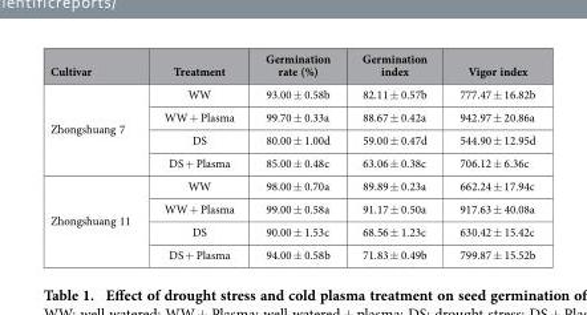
<table><thead><tr><td>Cultivar</td><td>Treatment</td><td>Germination rate (%)</td><td>Germination index</td><td>Vigor index</td></tr></thead><tbody><tr><td rowspan="4">Zhongshuang 7</td><td>WW</td><td>93.00 ± 0.58b</td><td>82.11 ± 0.57b</td><td>777.47 ± 16.82b</td></tr><tr><td>WW + Plasma</td><td>99.70 ± 0.33a</td><td>88.67 ± 0.42a</td><td>942.97 ± 20.86a</td></tr><tr><td>DS</td><td>80.00 ± 1.00d</td><td>59.00 ± 0.47d</td><td>544.90 ± 12.95d</td></tr><tr><td>DS + Plasma</td><td>85.00 ± 0.48c</td><td>63.06 ± 0.38c</td><td>706.12 ± 6.36c</td></tr><tr><td rowspan="4">Zhongshuang 11</td><td>WW</td><td>98.00 ± 0.70a</td><td>89.89 ± 0.23a</td><td>662.24 ± 17.94c</td></tr><tr><td>WW + Plasma</td><td>99.00 ± 0.58a</td><td>91.17 ± 0.50a</td><td>917.63 ± 40.08a</td></tr><tr><td>DS</td><td>90.00 ± 1.53c</td><td>68.56 ± 1.23c</td><td>630.42 ± 15.42c</td></tr><tr><td>DS + Plasma</td><td>94.00 ± 0.58b</td><td>71.83 ± 0.49b</td><td>799.87 ± 15.52b</td></tr></tbody></table>